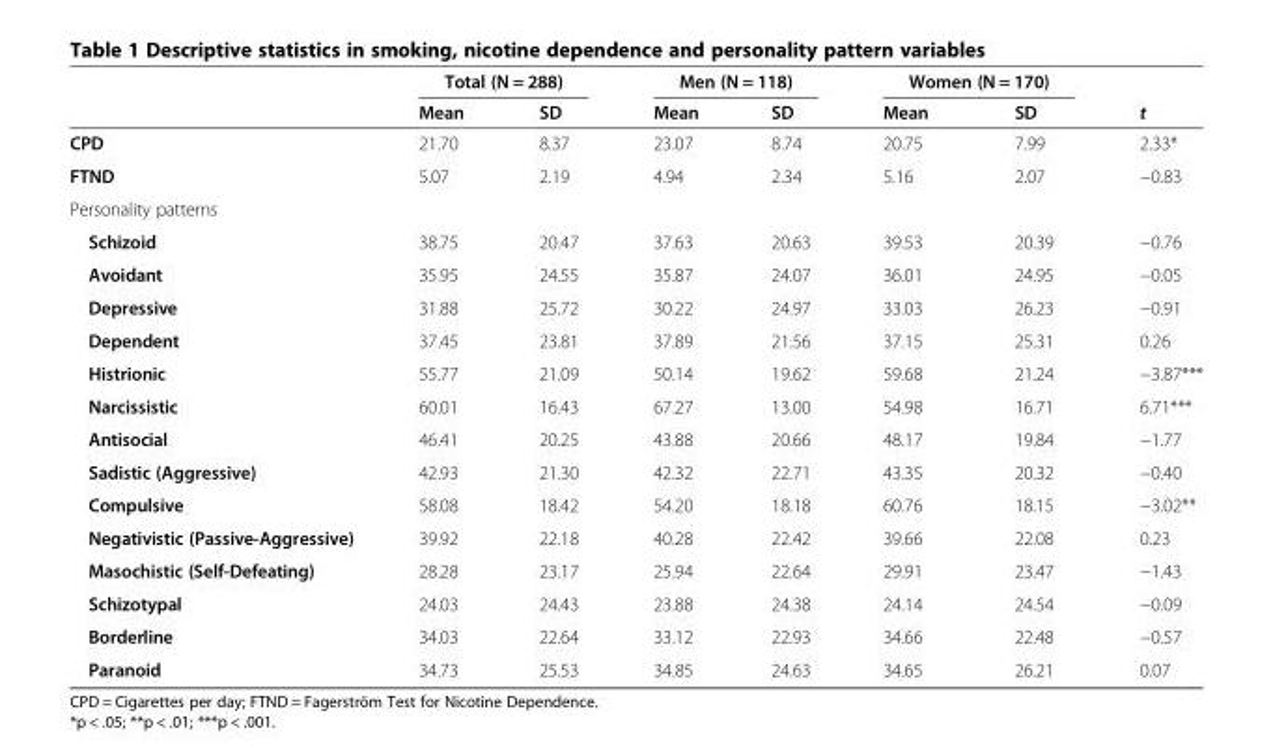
<table><thead><tr><td rowspan="2"></td><td colspan="2">Total (N = 288)</td><td colspan="2">Men (N = 118)</td><td colspan="2">Women (N = 170)</td><td rowspan="2">t</td></tr><tr><td>Mean</td><td>SD</td><td>Mean</td><td>SD</td><td>Mean</td><td>SD</td></tr></thead><tbody><tr><td>CPD</td><td>21.70</td><td>8.37</td><td>23.07</td><td>8.74</td><td>20.75</td><td>7.99</td><td>2.33*</td></tr><tr><td>FTND</td><td>5.07</td><td>2.19</td><td>4.94</td><td>2.34</td><td>5.16</td><td>2.07</td><td>−0.83</td></tr><tr><td colspan="8">Personality patterns</td></tr><tr><td>Schizoid</td><td>38.75</td><td>20.47</td><td>37.63</td><td>20.63</td><td>39.53</td><td>20.39</td><td>−0.76</td></tr><tr><td>Avoidant</td><td>35.95</td><td>24.55</td><td>35.87</td><td>24.07</td><td>36.01</td><td>24.95</td><td>−0.05</td></tr><tr><td>Depressive</td><td>31.88</td><td>25.72</td><td>30.22</td><td>24.97</td><td>33.03</td><td>26.23</td><td>−0.91</td></tr><tr><td>Dependent</td><td>37.45</td><td>23.81</td><td>37.89</td><td>21.56</td><td>37.15</td><td>25.31</td><td>0.26</td></tr><tr><td>Histrionic</td><td>55.77</td><td>21.09</td><td>50.14</td><td>19.62</td><td>59.68</td><td>21.24</td><td>−3.87***</td></tr><tr><td>Narcissistic</td><td>60.01</td><td>16.43</td><td>67.27</td><td>13.00</td><td>54.98</td><td>16.71</td><td>6.71***</td></tr><tr><td>Antisocial</td><td>46.41</td><td>20.25</td><td>43.88</td><td>20.66</td><td>48.17</td><td>19.84</td><td>−1.77</td></tr><tr><td>Sadistic (Aggressive)</td><td>42.93</td><td>21.30</td><td>42.32</td><td>22.71</td><td>43.35</td><td>20.32</td><td>−0.40</td></tr><tr><td>Compulsive</td><td>58.08</td><td>18.42</td><td>54.20</td><td>18.18</td><td>60.76</td><td>18.15</td><td>−3.02**</td></tr><tr><td>Negativistic (Passive-Aggressive)</td><td>39.92</td><td>22.18</td><td>40.28</td><td>22.42</td><td>39.66</td><td>22.08</td><td>0.23</td></tr><tr><td>Masochistic (Self-Defeating)</td><td>28.28</td><td>23.17</td><td>25.94</td><td>22.64</td><td>29.91</td><td>23.47</td><td>−1.43</td></tr><tr><td>Schizotypal</td><td>24.03</td><td>24.43</td><td>23.88</td><td>24.38</td><td>24.14</td><td>24.54</td><td>−0.09</td></tr><tr><td>Borderline</td><td>34.03</td><td>22.64</td><td>33.12</td><td>22.93</td><td>34.66</td><td>22.48</td><td>−0.57</td></tr><tr><td>Paranoid</td><td>34.73</td><td>25.53</td><td>34.85</td><td>24.63</td><td>34.65</td><td>26.21</td><td>0.07</td></tr></tbody></table>